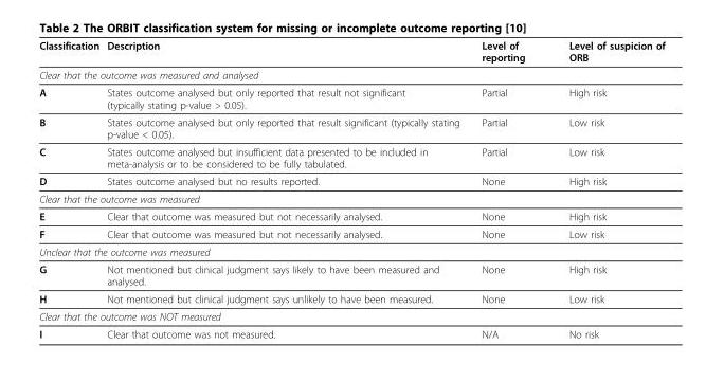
<table><thead><tr><td>Classification</td><td>Description</td><td>Level of reporting</td><td>Level of suspicion of ORB</td></tr></thead><tbody><tr><td colspan="4">Clear that the outcome was measured and analysed</td></tr><tr><td>A</td><td>States outcome analysed but only reported that result not significant (typically stating p-value &gt; 0.05).</td><td>Partial</td><td>High risk</td></tr><tr><td>B</td><td>States outcome analysed but only reported that result significant (typically stating p-value &lt; 0.05).</td><td>Partial</td><td>Low risk</td></tr><tr><td>C</td><td>States outcome analysed but insufficient data presented to be included in meta-analysis or to be considered to be fully tabulated.</td><td>Partial</td><td>Low risk</td></tr><tr><td>D</td><td>States outcome analysed but no results reported.</td><td>None</td><td>High risk</td></tr><tr><td colspan="4">Clear that the outcome was measured</td></tr><tr><td>E</td><td>Clear that outcome was measured but not necessarily analysed.</td><td>None</td><td>High risk</td></tr><tr><td>F</td><td>Clear that outcome was measured but not necessarily analysed.</td><td>None</td><td>Low risk</td></tr><tr><td colspan="4">Unclear that the outcome was measured</td></tr><tr><td>G</td><td>Not mentioned but clinical judgment says likely to have been measured and analysed.</td><td>None</td><td>High risk</td></tr><tr><td>H</td><td>Not mentioned but clinical judgment says unlikely to have been measured.</td><td>None</td><td>Low risk</td></tr><tr><td colspan="4">Clear that the outcome was NOT measured</td></tr><tr><td>I</td><td>Clear that outcome was not measured.</td><td>N/A</td><td>No risk</td></tr></tbody></table>